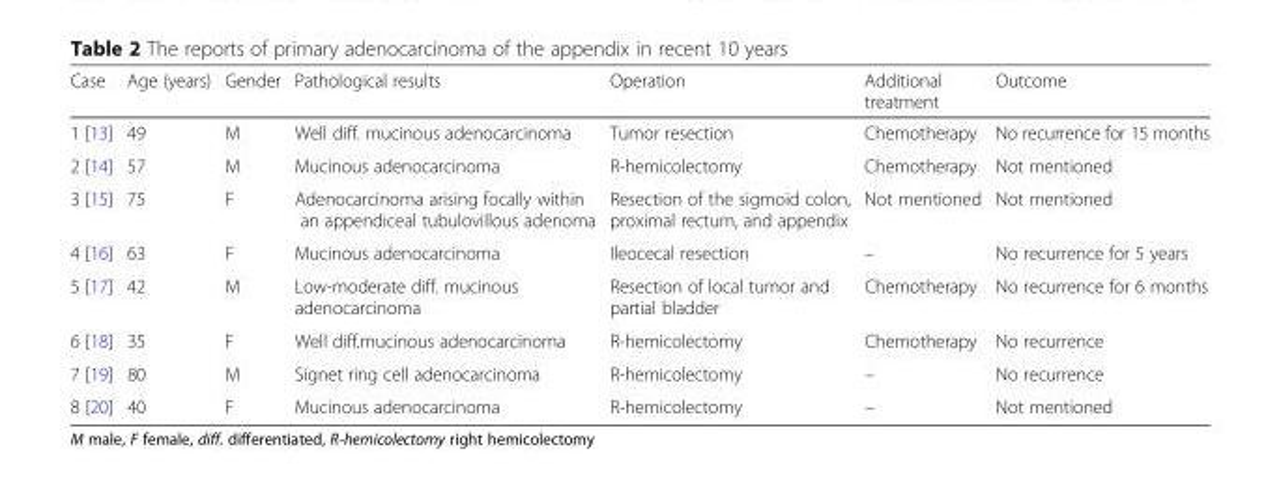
<table><thead><tr><td>Case</td><td>Age (years)</td><td>Gender</td><td>Pathological results</td><td>Operation</td><td>Additional treatment</td><td>Outcome</td></tr></thead><tbody><tr><td>1 [13]</td><td>49</td><td>M</td><td>Well diff. mucinous adenocarcinoma</td><td>Tumor resection</td><td>Chemotherapy</td><td>No recurrence for 15 months</td></tr><tr><td>2 [14]</td><td>57</td><td>M</td><td>Mucinous adenocarcinoma</td><td>R-hemicolectomy</td><td>Chemotherapy</td><td>Not mentioned</td></tr><tr><td>3 [15]</td><td>75</td><td>F</td><td>Adenocarcinoma arising focally within an appendiceal tubulovillous adenoma</td><td>Resection of the sigmoid colon, proximal rectum, and appendix</td><td>Not mentioned</td><td>Not mentioned</td></tr><tr><td>4 [16]</td><td>63</td><td>F</td><td>Mucinous adenocarcinoma</td><td>Ileocecal resection</td><td>–</td><td>No recurrence for 5 years</td></tr><tr><td>5 [17]</td><td>42</td><td>M</td><td>Low-moderate diff. mucinous adenocarcinoma</td><td>Resection of local tumor and partial bladder</td><td>Chemotherapy</td><td>No recurrence for 6 months</td></tr><tr><td>6 [18]</td><td>35</td><td>F</td><td>Well diff.mucinous adenocarcinoma</td><td>R-hemicolectomy</td><td>Chemotherapy</td><td>No recurrence</td></tr><tr><td>7 [19]</td><td>80</td><td>M</td><td>Signet ring cell adenocarcinoma</td><td>R-hemicolectomy</td><td>–</td><td>No recurrence</td></tr><tr><td>8 [20]</td><td>40</td><td>F</td><td>Mucinous adenocarcinoma</td><td>R-hemicolectomy</td><td>–</td><td>Not mentioned</td></tr></tbody></table>